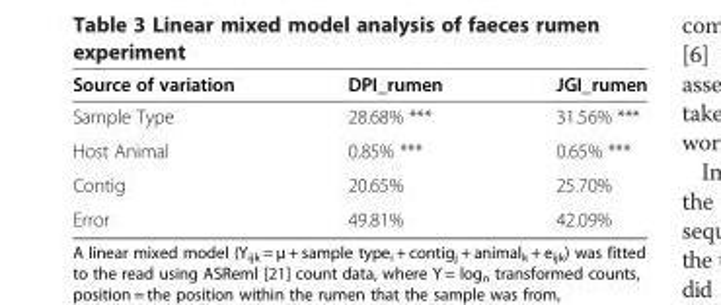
<table><thead><tr><td>Source of variation</td><td>DPI_rumen</td><td>JGI_rumen</td></tr></thead><tbody><tr><td>Sample Type</td><td>28.68% ***</td><td>31.56% ***</td></tr><tr><td>Host Animal</td><td>0.85% ***</td><td>0.65% ***</td></tr><tr><td>Contig</td><td>20.65%</td><td>25.70%</td></tr><tr><td>Error</td><td>49.81%</td><td>42.09%</td></tr></tbody></table>